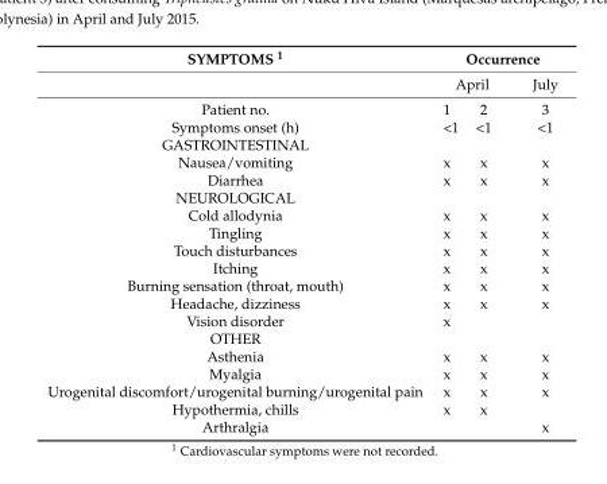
<table><thead><tr><td rowspan="3">SYMPTOMS <sup>1</sup> Patient no.</td><td colspan="3">Occurrence</td></tr><tr><td colspan="2">April</td><td rowspan="2">July 3</td></tr><tr><td>1</td><td>2</td></tr></thead><tbody><tr><td>Symptoms onset (h)</td><td>&lt;1</td><td>&lt;1</td><td>&lt;1</td></tr><tr><td colspan="4">GASTROINTESTINAL</td></tr><tr><td>Nausea/vomiting</td><td>x</td><td>x</td><td>x</td></tr><tr><td>Diarrhea</td><td>x</td><td>x</td><td>x</td></tr><tr><td colspan="4">NEUROLOGICAL</td></tr><tr><td>Cold allodynia</td><td>x</td><td>x</td><td>x</td></tr><tr><td>Tingling</td><td>x</td><td>x</td><td>x</td></tr><tr><td>Touch disturbances</td><td>x</td><td>x</td><td>x</td></tr><tr><td>Itching</td><td>x</td><td>x</td><td>x</td></tr><tr><td>Burning sensation (throat, mouth)</td><td>x</td><td>x</td><td>x</td></tr><tr><td>Headache, dizziness</td><td>x</td><td>x</td><td>x</td></tr><tr><td>Vision disorder</td><td>x</td><td></td><td></td></tr><tr><td colspan="4">OTHER</td></tr><tr><td>Asthenia</td><td>x</td><td>x</td><td>x</td></tr><tr><td>Myalgia</td><td>x</td><td>x</td><td>x</td></tr><tr><td>Urogenital discomfort/urogenital burning/urogenital pain</td><td>x</td><td>x</td><td>x</td></tr><tr><td>Hypothermia, chills</td><td>x</td><td>x</td><td></td></tr><tr><td>Arthralgia</td><td></td><td></td><td>x</td></tr></tbody></table>